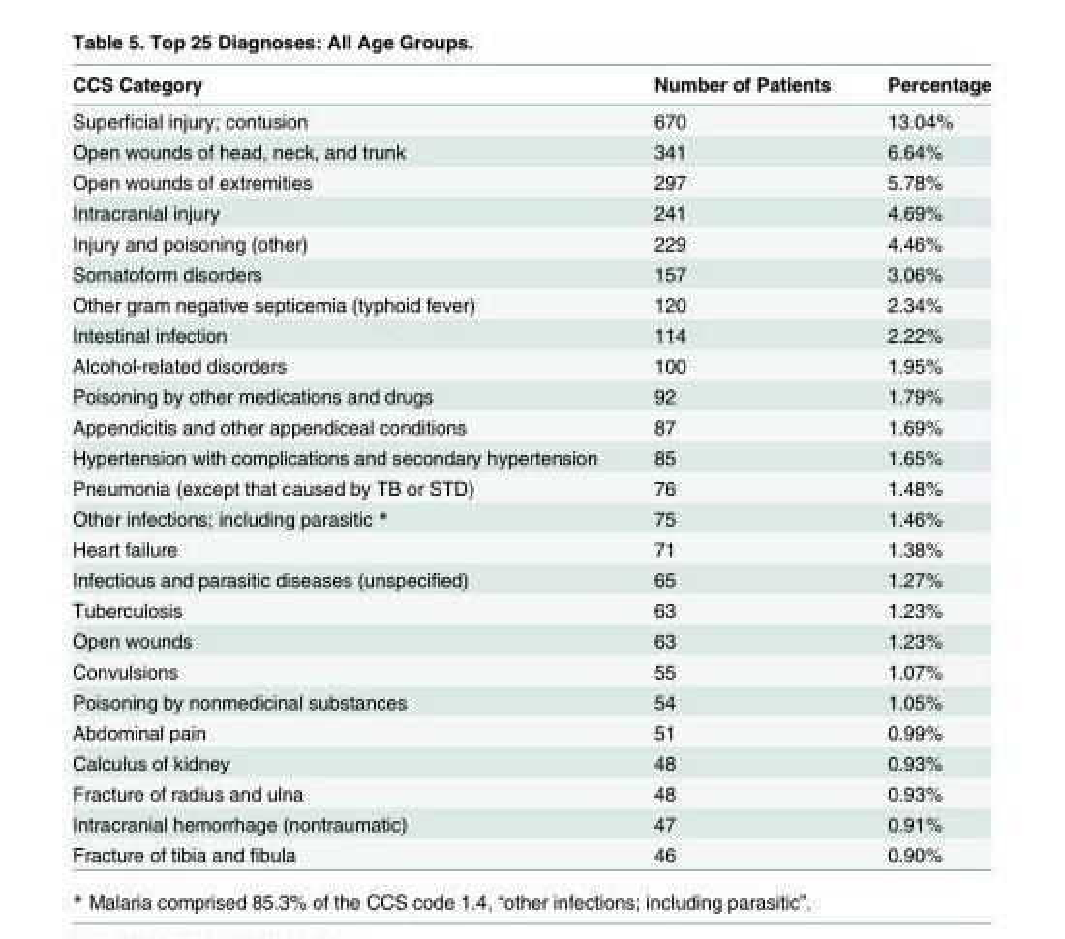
<table><thead><tr><td>CCS Category</td><td>Number of Patients</td><td>Percentage</td></tr></thead><tbody><tr><td>Superficial injury; contusion</td><td>670</td><td>13.04%</td></tr><tr><td>Open wounds of head, neck, and trunk</td><td>341</td><td>6.64%</td></tr><tr><td>Open wounds of extremities</td><td>297</td><td>5.78%</td></tr><tr><td>Intracranial injury</td><td>241</td><td>4.69%</td></tr><tr><td>Injury and poisoning (other)</td><td>229</td><td>4.46%</td></tr><tr><td>Somatoform disorders</td><td>157</td><td>3.06%</td></tr><tr><td>Other gram negative septicemia (typhoid fever)</td><td>120</td><td>2.34%</td></tr><tr><td>Intestinal infection</td><td>114</td><td>2.22%</td></tr><tr><td>Alcohol-related disorders</td><td>100</td><td>1.95%</td></tr><tr><td>Poisoning by other medications and drugs</td><td>92</td><td>1.79%</td></tr><tr><td>Appendicitis and other appendiceal conditions</td><td>87</td><td>1.69%</td></tr><tr><td>Hypertension with complications and secondary hypertension</td><td>85</td><td>1.65%</td></tr><tr><td>Pneumonia (except that caused by TB or STD)</td><td>76</td><td>1.48%</td></tr><tr><td>Other infections; including parasitic *</td><td>75</td><td>1.46%</td></tr><tr><td>Heart failure</td><td>71</td><td>1.38%</td></tr><tr><td>Infectious and parasitic diseases (unspecified)</td><td>65</td><td>1.27%</td></tr><tr><td>Tuberculosis</td><td>63</td><td>1.23%</td></tr><tr><td>Open wounds</td><td>63</td><td>1.23%</td></tr><tr><td>Convulsions</td><td>55</td><td>1.07%</td></tr><tr><td>Poisoning by nonmedicinal substances</td><td>54</td><td>1.05%</td></tr><tr><td>Abdominal pain</td><td>51</td><td>0.99%</td></tr><tr><td>Calculus of kidney</td><td>48</td><td>0.93%</td></tr><tr><td>Fracture of radius and ulna</td><td>48</td><td>0.93%</td></tr><tr><td>Intracranial hemorrhage (nontraumatic)</td><td>47</td><td>0.91%</td></tr><tr><td>Fracture of tibia and fibula</td><td>46</td><td>0.90%</td></tr></tbody></table>